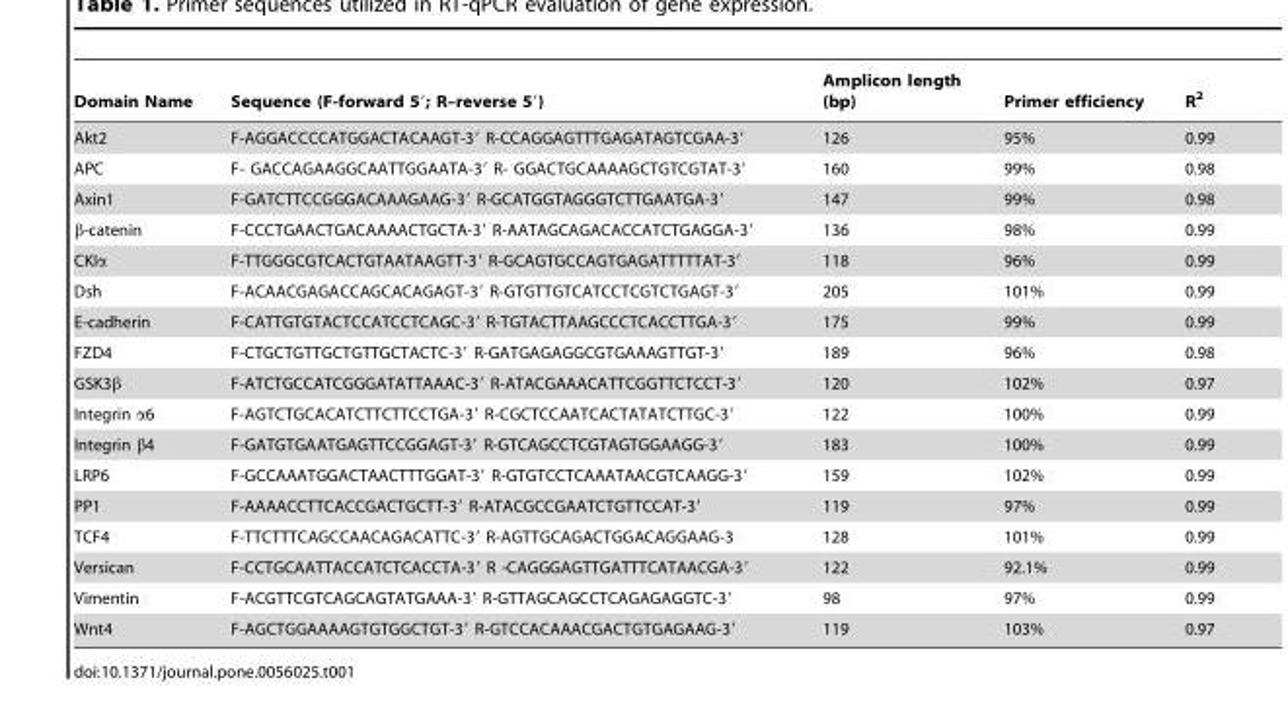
<table><thead><tr><td>Domain Name</td><td>Sequence (F-forward 5′; R–reverse 5′)</td><td>Amplicon length (bp)</td><td>Primer efficiency</td><td>R<sup>2</sup></td></tr></thead><tbody><tr><td>Akt2</td><td>F-AGGACCCCATGGACTACAAGT-3′ R-CCAGGAGTTTGAGATAGTCGAA-3′</td><td>126</td><td>95%</td><td>0.99</td></tr><tr><td>APC</td><td>F- GACCAGAAGGCAATTGGAATA-3′ R- GGACTGCAAAAGCTGTCGTAT-3′</td><td>160</td><td>99%</td><td>0.98</td></tr><tr><td>Axin1</td><td>F-GATCTTCCGGGACAAAGAAG-3′ R-GCATGGTAGGGTCTTGAATGA-3′</td><td>147</td><td>99%</td><td>0.98</td></tr><tr><td>β-catenin</td><td>F-CCCTGAACTGACAAAACTGCTA-3′ R-AATAGCAGACACCATCTGAGGA-3′</td><td>136</td><td>98%</td><td>0.99</td></tr><tr><td>CKIα</td><td>F-TTGGGCGTCACTGTAATAAGTT-3′ R-GCAGTGCCAGTGAGATTTTTAT-3′</td><td>118</td><td>96%</td><td>0.99</td></tr><tr><td>Dsh</td><td>F-ACAACGAGACCAGCACAGAGT-3′ R-GTGTTGTCATCCTCGTCTGAGT-3′</td><td>205</td><td>101%</td><td>0.99</td></tr><tr><td>E-cadherin</td><td>F-CATTGTGTACTCCATCCTCAGC-3′ R-TGTACTTAAGCCCTCACCTTGA-3′</td><td>175</td><td>99%</td><td>0.99</td></tr><tr><td>FZD4</td><td>F-CTGCTGTTGCTGTTGCTACTC-3′ R-GATGAGAGGCGTGAAAGTTGT-3′</td><td>189</td><td>96%</td><td>0.98</td></tr><tr><td>GSK3β</td><td>F-ATCTGCCATCGGGATATTAAAC-3′ R-ATACGAAACATTCGGTTCTCCT-3′</td><td>120</td><td>102%</td><td>0.97</td></tr><tr><td>Integrin α6</td><td>F-AGTCTGCACATCTTCTTCCTGA-3′ R-CGCTCCAATCACTATATCTTGC-3′</td><td>122</td><td>100%</td><td>0.99</td></tr><tr><td>Integrin β4</td><td>F-GATGTGAATGAGTTCCGGAGT-3′ R-GTCAGCCTCGTAGTGGAAGG-3′</td><td>183</td><td>100%</td><td>0.99</td></tr><tr><td>LRP6</td><td>F-GCCAAATGGACTAACTTTGGAT-3′ R-GTGTCCTCAAATAACGTCAAGG-3′</td><td>159</td><td>102%</td><td>0.99</td></tr><tr><td>PP1</td><td>F-AAAACCTTCACCGACTGCTT-3′ R-ATACGCCGAATCTGTTCCAT-3′</td><td>119</td><td>97%</td><td>0.99</td></tr><tr><td>TCF4</td><td>F-TTCTTTCAGCCAACAGACATTC-3′ R-AGTTGCAGACTGGACAGGAAG-3</td><td>128</td><td>101%</td><td>0.99</td></tr><tr><td>Versican</td><td>F-CCTGCAATTACCATCTCACCTA-3′ R -CAGGGAGTTGATTTCATAACGA-3′</td><td>122</td><td>92.1%</td><td>0.99</td></tr><tr><td>Vimentin</td><td>F-ACGTTCGTCAGCAGTATGAAA-3′ R-GTTAGCAGCCTCAGAGAGGTC-3′</td><td>98</td><td>97%</td><td>0.99</td></tr><tr><td>Wnt4</td><td>F-AGCTGGAAAAGTGTGGCTGT-3′ R-GTCCACAAACGACTGTGAGAAG-3′</td><td>119</td><td>103%</td><td>0.97</td></tr></tbody></table>